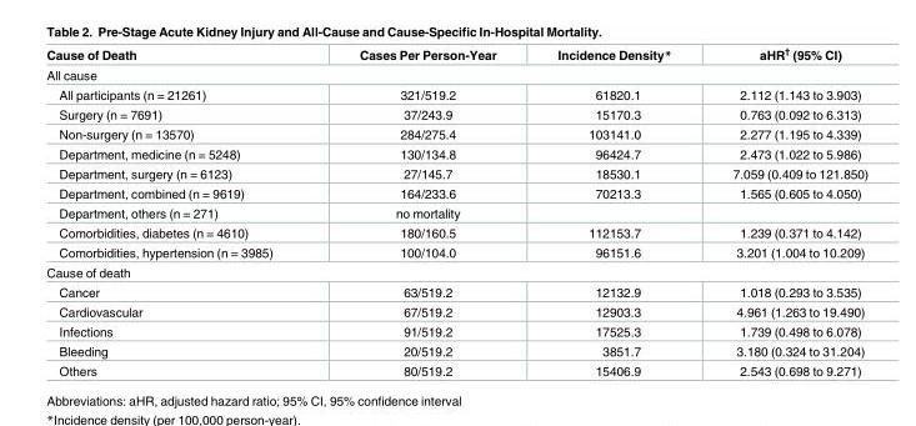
<table><thead><tr><td>Cause of Death</td><td>Cases Per Person-Year</td><td>Incidence Density*</td><td>aHR<sup>†</sup> (95% CI)</td></tr></thead><tbody><tr><td colspan="4">All cause</td></tr><tr><td>All participants (n = 21261)</td><td>321/519.2</td><td>61820.1</td><td>2.112 (1.143 to 3.903)</td></tr><tr><td>Surgery (n = 7691)</td><td>37/243.9</td><td>15170.3</td><td>0.763 (0.092 to 6.313)</td></tr><tr><td>Non-surgery (n = 13570)</td><td>284/275.4</td><td>103141.0</td><td>2.277 (1.195 to 4.339)</td></tr><tr><td>Department, medicine (n = 5248)</td><td>130/134.8</td><td>96424.7</td><td>2.473 (1.022 to 5.986)</td></tr><tr><td>Department, surgery (n = 6123)</td><td>27/145.7</td><td>18530.1</td><td>7.059 (0.409 to 121.850)</td></tr><tr><td>Department, combined (n = 9619)</td><td>164/233.6</td><td>70213.3</td><td>1.565 (0.605 to 4.050)</td></tr><tr><td>Department, others (n = 271)</td><td>no mortality</td><td></td><td></td></tr><tr><td>Comorbidities, diabetes (n = 4610)</td><td>180/160.5</td><td>112153.7</td><td>1.239 (0.371 to 4.142)</td></tr><tr><td>Comorbidities, hypertension (n = 3985)</td><td>100/104.0</td><td>96151.6</td><td>3.201 (1.004 to 10.209)</td></tr><tr><td colspan="4">Cause of death</td></tr><tr><td>Cancer</td><td>63/519.2</td><td>12132.9</td><td>1.018 (0.293 to 3.535)</td></tr><tr><td>Cardiovascular</td><td>67/519.2</td><td>12903.3</td><td>4.961 (1.263 to 19.490)</td></tr><tr><td>Infections</td><td>91/519.2</td><td>17525.3</td><td>1.739 (0.498 to 6.078)</td></tr><tr><td>Bleeding</td><td>20/519.2</td><td>3851.7</td><td>3.180 (0.324 to 31.204)</td></tr><tr><td>Others</td><td>80/519.2</td><td>15406.9</td><td>2.543 (0.698 to 9.271)</td></tr></tbody></table>